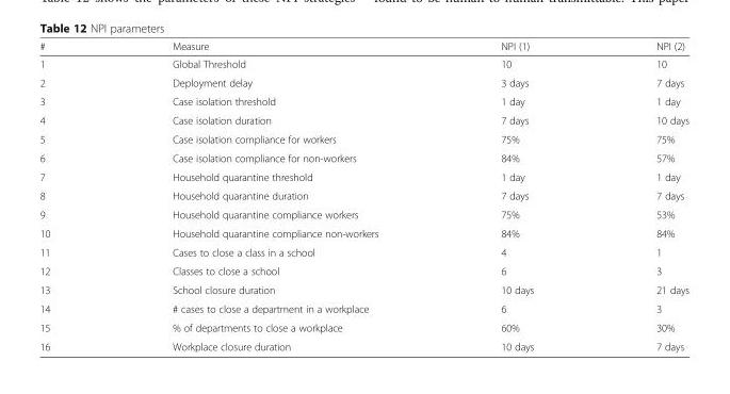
<table><thead><tr><td>#</td><td>Measure</td><td>NPI (1)</td><td>NPI (2)</td></tr></thead><tbody><tr><td>1</td><td>Global Threshold</td><td>10</td><td>10</td></tr><tr><td>2</td><td>Deployment delay</td><td>3 days</td><td>7 days</td></tr><tr><td>3</td><td>Case isolation threshold</td><td>1 day</td><td>1 day</td></tr><tr><td>4</td><td>Case isolation duration</td><td>7 days</td><td>10 days</td></tr><tr><td>5</td><td>Case isolation compliance for workers</td><td>75%</td><td>75%</td></tr><tr><td>6</td><td>Case isolation compliance for non-workers</td><td>84%</td><td>57%</td></tr><tr><td>7</td><td>Household quarantine threshold</td><td>1 day</td><td>1 day</td></tr><tr><td>8</td><td>Household quarantine duration</td><td>7 days</td><td>7 days</td></tr><tr><td>9</td><td>Household quarantine compliance workers</td><td>75%</td><td>53%</td></tr><tr><td>10</td><td>Household quarantine compliance non-workers</td><td>84%</td><td>84%</td></tr><tr><td>11</td><td>Cases to close a class in a school</td><td>4</td><td>1</td></tr><tr><td>12</td><td>Classes to close a school</td><td>6</td><td>3</td></tr><tr><td>13</td><td>School closure duration</td><td>10 days</td><td>21 days</td></tr><tr><td>14</td><td># cases to close a department in a workplace</td><td>6</td><td>3</td></tr><tr><td>15</td><td>% of departments to close a workplace</td><td>60%</td><td>30%</td></tr><tr><td>16</td><td>Workplace closure duration</td><td>10 days</td><td>7 days</td></tr></tbody></table>